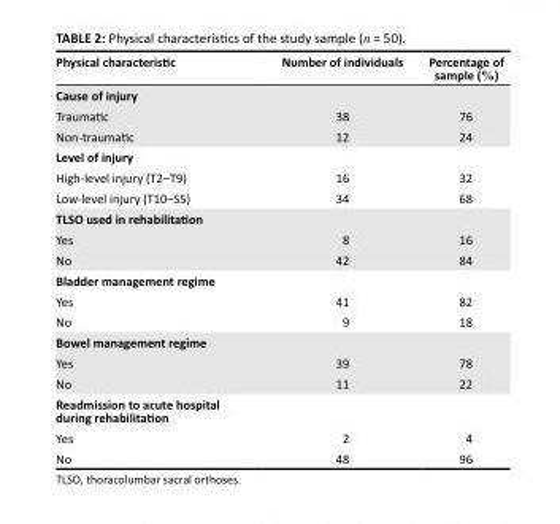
<table><thead><tr><td>Physical characteristic</td><td>Number of individuals</td><td>Percentage of sample (%)</td></tr></thead><tbody><tr><td colspan="3">Cause of injury</td></tr><tr><td>Traumatic</td><td>38</td><td>76</td></tr><tr><td>Non-traumatic</td><td>12</td><td>24</td></tr><tr><td colspan="3">Level of injury</td></tr><tr><td>High-level injury (T2–T9)</td><td>16</td><td>32</td></tr><tr><td>Low-level injury (T10–S5)</td><td>34</td><td>68</td></tr><tr><td colspan="3">TLSO used in rehabilitation</td></tr><tr><td>Yes</td><td>8</td><td>16</td></tr><tr><td>No</td><td>42</td><td>84</td></tr><tr><td colspan="3">Bladder management regime</td></tr><tr><td>Yes</td><td>41</td><td>82</td></tr><tr><td>No</td><td>9</td><td>18</td></tr><tr><td colspan="3">Bowel management regime</td></tr><tr><td>Yes</td><td>39</td><td>78</td></tr><tr><td>No</td><td>11</td><td>22</td></tr><tr><td colspan="3">Readmission to acute hospital during rehabilitation</td></tr><tr><td>Yes</td><td>2</td><td>4</td></tr><tr><td>No</td><td>48</td><td>96</td></tr></tbody></table>